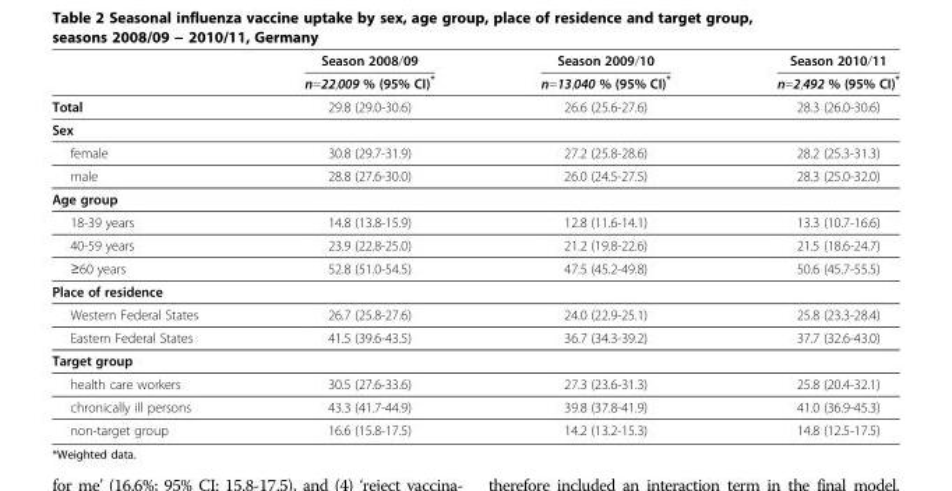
<table><thead><tr><td rowspan="2"></td><td rowspan="2">Season 2008/09 n=22,009 % (95% CI)*</td><td rowspan="2">Season 2009/10 n=13,040 % (95% CI)*</td><td rowspan="2">Season 2010/11 n=2,492 % (95% CI)*</td></tr><tr></tr></thead><tbody><tr><td>Total</td><td>29.8 (29.0-30.6)</td><td>26.6 (25.6-27.6)</td><td>28.3 (26.0-30.6)</td></tr><tr><td colspan="4">Sex</td></tr><tr><td>female</td><td>30.8 (29.7-31.9)</td><td>27.2 (25.8-28.6)</td><td>28.2 (25.3-31.3)</td></tr><tr><td>male</td><td>28.8 (27.6-30.0)</td><td>26.0 (24.5-27.5)</td><td>28.3 (25.0-32.0)</td></tr><tr><td colspan="4">Age group</td></tr><tr><td>18-39 years</td><td>14.8 (13.8-15.9)</td><td>12.8 (11.6-14.1)</td><td>13.3 (10.7-16.6)</td></tr><tr><td>40-59 years</td><td>23.9 (22.8-25.0)</td><td>21.2 (19.8-22.6)</td><td>21.5 (18.6-24.7)</td></tr><tr><td>≥60 years</td><td>52.8 (51.0-54.5)</td><td>47.5 (45.2-49.8)</td><td>50.6 (45.7-55.5)</td></tr><tr><td colspan="4">Place of residence</td></tr><tr><td>Western Federal States</td><td>26.7 (25.8-27.6)</td><td>24.0 (22.9-25.1)</td><td>25.8 (23.3-28.4)</td></tr><tr><td>Eastern Federal States</td><td>41.5 (39.6-43.5)</td><td>36.7 (34.3-39.2)</td><td>37.7 (32.6-43.0)</td></tr><tr><td colspan="4">Target group</td></tr><tr><td>health care workers</td><td>30.5 (27.6-33.6)</td><td>27.3 (23.6-31.3)</td><td>25.8 (20.4-32.1)</td></tr><tr><td>chronically ill persons</td><td>43.3 (41.7-44.9)</td><td>39.8 (37.8-41.9)</td><td>41.0 (36.9-45.3)</td></tr><tr><td>non-target group</td><td>16.6 (15.8-17.5)</td><td>14.2 (13.2-15.3)</td><td>14.8 (12.5-17.5)</td></tr></tbody></table>